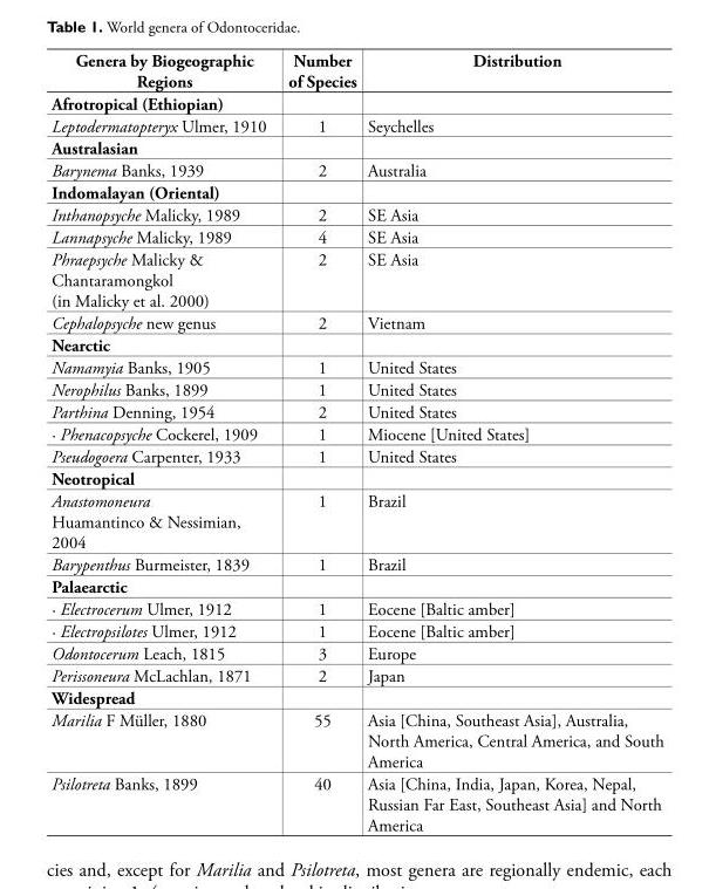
<table><thead><tr><td>Genera by Biogeographic Regions</td><td>Number of Species</td><td>Distribution</td></tr></thead><tbody><tr><td colspan="3">Afrotropical (Ethiopian)</td></tr><tr><td>Leptodermatopteryx Ulmer, 1910</td><td>1</td><td>Seychelles</td></tr><tr><td colspan="3">Australasian</td></tr><tr><td>Barynema Banks, 1939</td><td>2</td><td>Australia</td></tr><tr><td colspan="3">Indomalayan (Oriental)</td></tr><tr><td>Inthanopsyche Malicky, 1989</td><td>2</td><td>SE Asia</td></tr><tr><td>Lannapsyche Malicky, 1989</td><td>4</td><td>SE Asia</td></tr><tr><td>Phraepsyche Malicky &amp; Chantaramongkol (in Malicky et al. 2000)</td><td>2</td><td>SE Asia</td></tr><tr><td>Cephalopsyche new genus</td><td>2</td><td>Vietnam</td></tr><tr><td colspan="3">Nearctic</td></tr><tr><td>Namamyia Banks, 1905</td><td>1</td><td>United States</td></tr><tr><td>Nerophilus Banks, 1899</td><td>1</td><td>United States</td></tr><tr><td>Parthina Denning, 1954</td><td>2</td><td>United States</td></tr><tr><td>· Phenacopsyche Cockerel, 1909</td><td>1</td><td>Miocene [United States]</td></tr><tr><td>Pseudogoera Carpenter, 1933</td><td>1</td><td>United States</td></tr><tr><td colspan="3">Neotropical</td></tr><tr><td>Anastomoneura Huamantinco &amp; Nessimian, 2004</td><td>1</td><td>Brazil</td></tr><tr><td>Barypenthus Burmeister, 1839</td><td>1</td><td>Brazil</td></tr><tr><td colspan="3">Palaearctic</td></tr><tr><td>· Electrocerum Ulmer, 1912</td><td>1</td><td>Eocene [Baltic amber]</td></tr><tr><td>· Electropsilotes Ulmer, 1912</td><td>1</td><td>Eocene [Baltic amber]</td></tr><tr><td>Odontocerum Leach, 1815</td><td>3</td><td>Europe</td></tr><tr><td>Perissoneura McLachlan, 1871</td><td>2</td><td>Japan</td></tr><tr><td colspan="3">Widespread</td></tr><tr><td>Marilia F Müller, 1880</td><td>55</td><td>Asia [China, Southeast Asia], Australia, North America, Central America, and South America</td></tr><tr><td>Psilotreta Banks, 1899</td><td>40</td><td>Asia [China, India, Japan, Korea, Nepal, Russian Far East, Southeast Asia] and North America</td></tr></tbody></table>